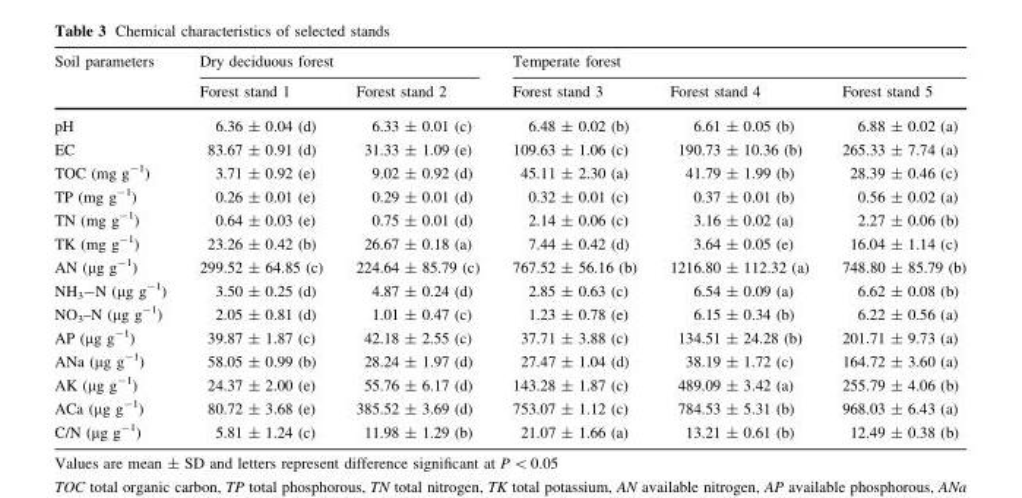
<table><thead><tr><td rowspan="2">Soil parameters</td><td colspan="2">Dry deciduous forest</td><td colspan="3">Temperate forest</td></tr><tr><td>Forest stand 1</td><td>Forest stand 2</td><td>Forest stand 3</td><td>Forest stand 4</td><td>Forest stand 5</td></tr></thead><tbody><tr><td>pH</td><td>6.36 ± 0.04 (d)</td><td>6.33 ± 0.01 (c)</td><td>6.48 ± 0.02 (b)</td><td>6.61 ± 0.05 (b)</td><td>6.88 ± 0.02 (a)</td></tr><tr><td>EC</td><td>83.67 ± 0.91 (d)</td><td>31.33 ± 1.09 (e)</td><td>109.63 ± 1.06 (c)</td><td>190.73 ± 10.36 (b)</td><td>265.33 ± 7.74 (a)</td></tr><tr><td>TOC (mg g<sup>-1</sup>)</td><td>3.71 ± 0.92 (e)</td><td>9.02 ± 0.92 (d)</td><td>45.11 ± 2.30 (a)</td><td>41.79 ± 1.99 (b)</td><td>28.39 ± 0.46 (c)</td></tr><tr><td>TP (mg g<sup>-1</sup>)</td><td>0.26 ± 0.01 (e)</td><td>0.29 ± 0.01 (d)</td><td>0.32 ± 0.01 (c)</td><td>0.37 ± 0.01 (b)</td><td>0.56 ± 0.02 (a)</td></tr><tr><td>TN (mg g<sup>-1</sup>)</td><td>0.64 ± 0.03 (e)</td><td>0.75 ± 0.01 (d)</td><td>2.14 ± 0.06 (c)</td><td>3.16 ± 0.02 (a)</td><td>2.27 ± 0.06 (b)</td></tr><tr><td>TK (mg g<sup>-1</sup>)</td><td>23.26 ± 0.42 (b)</td><td>26.67 ± 0.18 (a)</td><td>7.44 ± 0.42 (d)</td><td>3.64 ± 0.05 (e)</td><td>16.04 ± 1.14 (c)</td></tr><tr><td>AN (µg g<sup>-1</sup>)</td><td>299.52 ± 64.85 (c)</td><td>224.64 ± 85.79 (c)</td><td>767.52 ± 56.16 (b)</td><td>1216.80 ± 112.32 (a)</td><td>748.80 ± 85.79 (b)</td></tr><tr><td>NH<sub>3</sub>-N (µg g<sup>-1</sup>)</td><td>3.50 ± 0.25 (d)</td><td>4.87 ± 0.24 (d)</td><td>2.85 ± 0.63 (c)</td><td>6.54 ± 0.09 (a)</td><td>6.62 ± 0.08 (b)</td></tr><tr><td>NO<sub>3</sub>–N (µg g<sup>-1</sup>)</td><td>2.05 ± 0.81 (d)</td><td>1.01 ± 0.47 (c)</td><td>1.23 ± 0.78 (e)</td><td>6.15 ± 0.34 (b)</td><td>6.22 ± 0.56 (a)</td></tr><tr><td>AP (µg g<sup>-1</sup>)</td><td>39.87 ± 1.87 (c)</td><td>42.18 ± 2.55 (c)</td><td>37.71 ± 3.88 (c)</td><td>134.51 ± 24.28 (b)</td><td>201.71 ± 9.73 (a)</td></tr><tr><td>ANa (µg g<sup>-1</sup>)</td><td>58.05 ± 0.99 (b)</td><td>28.24 ± 1.97 (d)</td><td>27.47 ± 1.04 (d)</td><td>38.19 ± 1.72 (c)</td><td>164.72 ± 3.60 (a)</td></tr><tr><td>AK (µg g<sup>-1</sup>)</td><td>24.37 ± 2.00 (e)</td><td>55.76 ± 6.17 (d)</td><td>143.28 ± 1.87 (c)</td><td>489.09 ± 3.42 (a)</td><td>255.79 ± 4.06 (b)</td></tr><tr><td>ACa (µg g<sup>-1</sup>)</td><td>80.72 ± 3.68 (e)</td><td>385.52 ± 3.69 (d)</td><td>753.07 ± 1.12 (c)</td><td>784.53 ± 5.31 (b)</td><td>968.03 ± 6.43 (a)</td></tr><tr><td>C/N (µg g<sup>-1</sup>)</td><td>5.81 ± 1.24 (c)</td><td>11.98 ± 1.29 (b)</td><td>21.07 ± 1.66 (a)</td><td>13.21 ± 0.61 (b)</td><td>12.49 ± 0.38 (b)</td></tr></tbody></table>